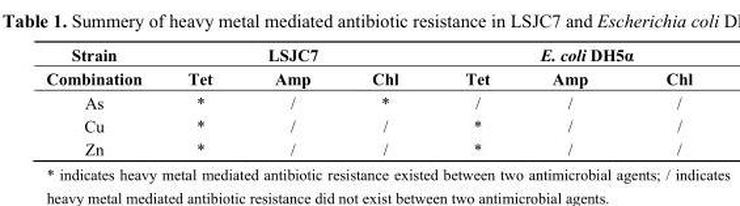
<table><thead><tr><td rowspan="2">Strain Combination</td><td colspan="3">LSJC7</td><td colspan="3">E. coli DH5α</td></tr><tr><td>Tet</td><td>Amp</td><td>Chl</td><td>Tet</td><td>Amp</td><td>Chl</td></tr></thead><tbody><tr><td>As</td><td>*</td><td>/</td><td>*</td><td>/</td><td>/</td><td>/</td></tr><tr><td>Cu</td><td>*</td><td>/</td><td>/</td><td>*</td><td>/</td><td>/</td></tr><tr><td>Zn</td><td>*</td><td>/</td><td>/</td><td>*</td><td>/</td><td>/</td></tr></tbody></table>